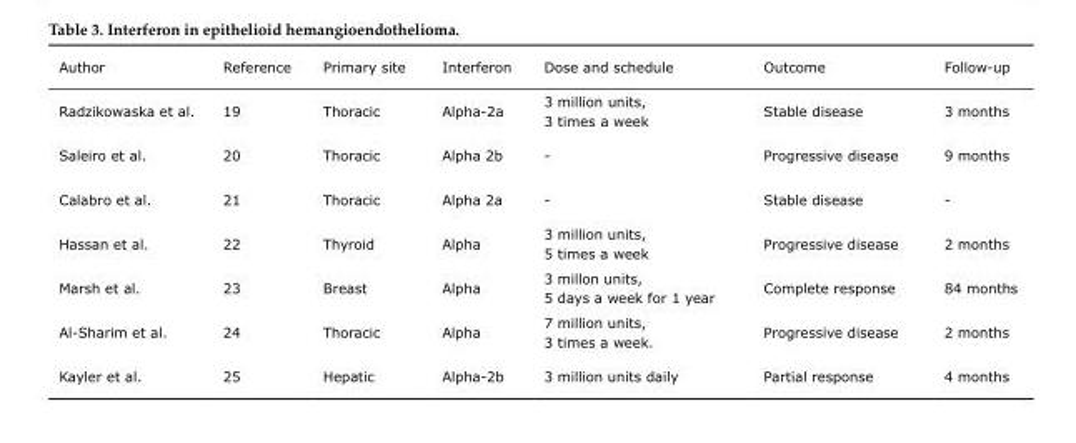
<table><thead><tr><td>Author</td><td>Reference</td><td>Primary site</td><td>Interferon</td><td>Dose and schedule</td><td>Outcome</td><td>Follow-up</td></tr></thead><tbody><tr><td>Radzikowaska et al.</td><td>19</td><td>Thoracic</td><td>Alpha-2a</td><td>3 million units, 3 times a week</td><td>Stable disease</td><td>3 months</td></tr><tr><td>Saleiro et al.</td><td>20</td><td>Thoracic</td><td>Alpha 2b</td><td>-</td><td>Progressive disease</td><td>9 months</td></tr><tr><td>Calabro et al.</td><td>21</td><td>Thoracic</td><td>Alpha 2a</td><td>-</td><td>Stable disease</td><td>-</td></tr><tr><td>Hassan et al.</td><td>22</td><td>Thyroid</td><td>Alpha</td><td>3 million units, 5 times a week</td><td>Progressive disease</td><td>2 months</td></tr><tr><td>Marsh et al.</td><td>23</td><td>Breast</td><td>Alpha</td><td>3 millon units, 5 days a week for 1 year</td><td>Complete response</td><td>84 months</td></tr><tr><td>Al-Sharim et al.</td><td>24</td><td>Thoracic</td><td>Alpha</td><td>7 million units, 3 times a week.</td><td>Progressive disease</td><td>2 months</td></tr><tr><td>Kayler et al.</td><td>25</td><td>Hepatic</td><td>Alpha-2b</td><td>3 million units daily</td><td>Partial response</td><td>4 months</td></tr></tbody></table>